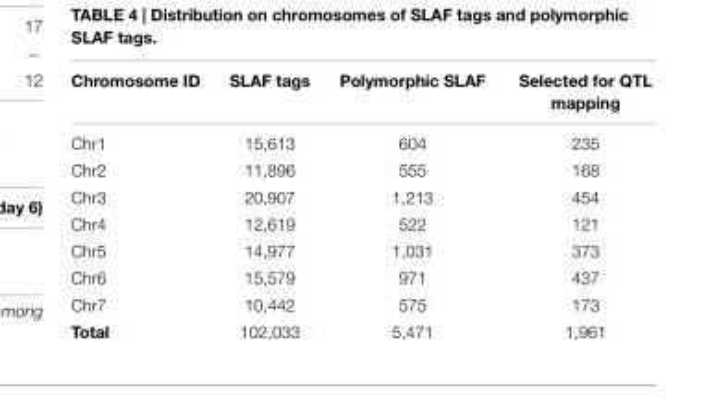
<table><thead><tr><td>Chromosome ID</td><td>SLAF tags</td><td>Polymorphic SLAF</td><td>Selected for QTL mapping</td></tr></thead><tbody><tr><td>Chr1</td><td>15,613</td><td>604</td><td>235</td></tr><tr><td>Chr2</td><td>11,896</td><td>555</td><td>168</td></tr><tr><td>Chr3</td><td>20,907</td><td>1,213</td><td>454</td></tr><tr><td>Chr4</td><td>12,619</td><td>522</td><td>121</td></tr><tr><td>Chr5</td><td>14,977</td><td>1,031</td><td>373</td></tr><tr><td>Chr6</td><td>15,579</td><td>971</td><td>437</td></tr><tr><td>Chr7</td><td>10,442</td><td>575</td><td>173</td></tr><tr><td>Total</td><td>102,033</td><td>5,471</td><td>1,961</td></tr></tbody></table>